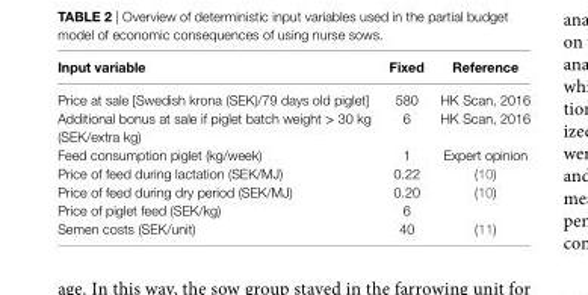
<table><thead><tr><td>input variable</td><td>Fixed</td><td>reference</td></tr></thead><tbody><tr><td>Price at sale [Swedish krona (SEK)/79 days old piglet]</td><td>580</td><td>HK Scan, 2016</td></tr><tr><td>Additional bonus at sale if piglet batch weight &gt; 30 kg (SEK/extra kg)</td><td>6</td><td>HK Scan, 2016</td></tr><tr><td>Feed consumption piglet (kg/week)</td><td>1</td><td>Expert opinion</td></tr><tr><td>Price of feed during lactation (SEK/MJ)</td><td>0.22</td><td>(10)</td></tr><tr><td>Price of feed during dry period (SEK/MJ)</td><td>0.20</td><td>(10)</td></tr><tr><td>Price of piglet feed (SEK/kg)</td><td>6</td><td></td></tr><tr><td>Semen costs (SEK/unit)</td><td>40</td><td>(11)</td></tr></tbody></table>